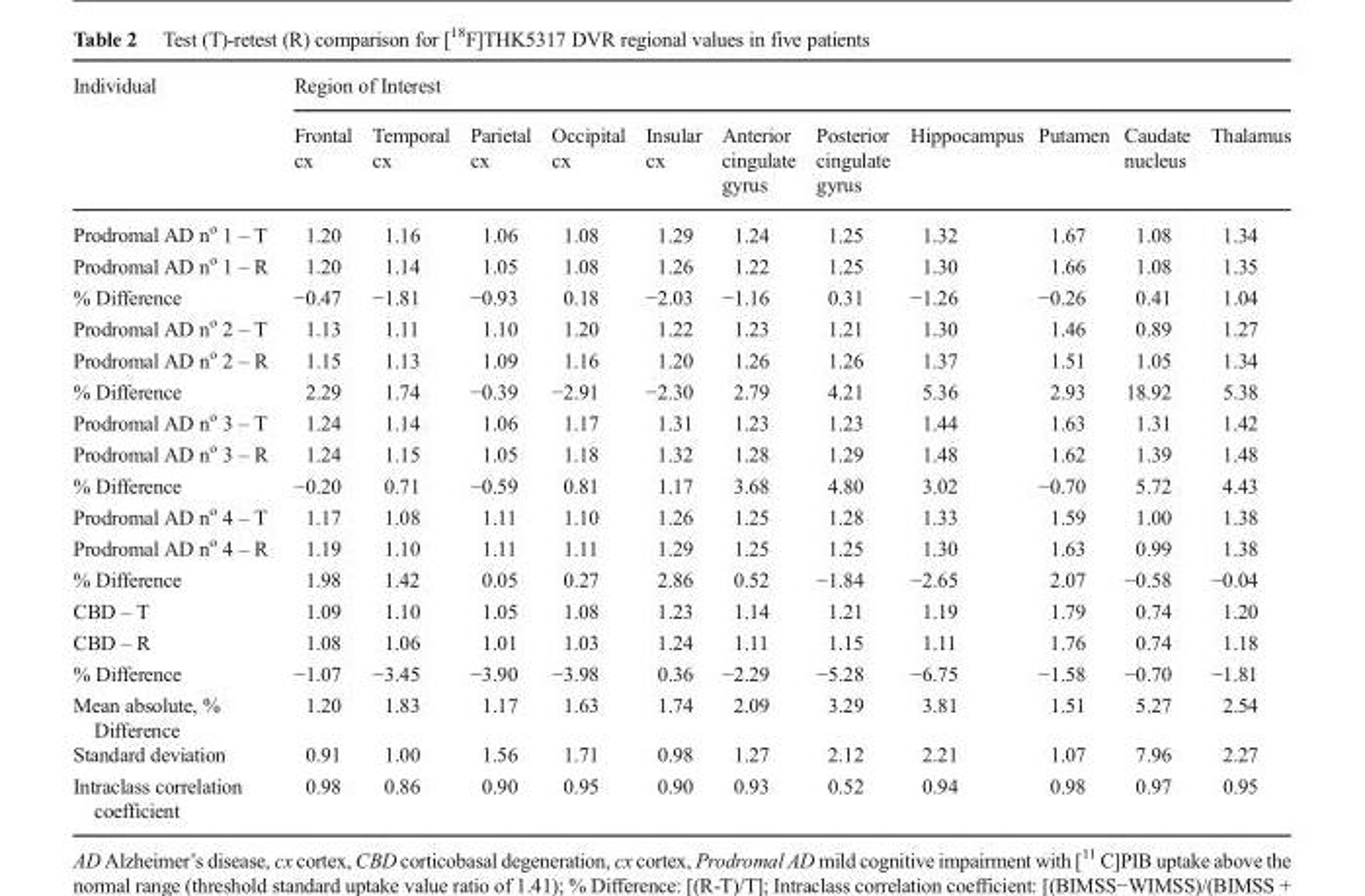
<table><thead><tr><td rowspan="2">Individual</td><td colspan="11">Region of Interest</td></tr><tr><td>Frontal cx</td><td>Temporal cx</td><td>Parietal cx</td><td>Occipital cx</td><td>Insular cx</td><td>Anterior cingulate gyrus</td><td>Posterior cingulate gyrus</td><td>Hippocampus</td><td>Putamen</td><td>Caudate nucleus</td><td>Thalamus</td></tr></thead><tbody><tr><td>Prodromal AD n<sup>o</sup> 1 – T</td><td>1.20</td><td>1.16</td><td>1.06</td><td>1.08</td><td>1.29</td><td>1.24</td><td>1.25</td><td>1.32</td><td>1.67</td><td>1.08</td><td>1.34</td></tr><tr><td>Prodromal AD n<sup>o</sup> 1 – R</td><td>1.20</td><td>1.14</td><td>1.05</td><td>1.08</td><td>1.26</td><td>1.22</td><td>1.25</td><td>1.30</td><td>1.66</td><td>1.08</td><td>1.35</td></tr><tr><td>% Difference</td><td>−0.47</td><td>−1.81</td><td>−0.93</td><td>0.18</td><td>−2.03</td><td>−1.16</td><td>0.31</td><td>−1.26</td><td>−0.26</td><td>0.41</td><td>1.04</td></tr><tr><td>Prodromal AD n<sup>o</sup> 2 – T</td><td>1.13</td><td>1.11</td><td>1.10</td><td>1.20</td><td>1.22</td><td>1.23</td><td>1.21</td><td>1.30</td><td>1.46</td><td>0.89</td><td>1.27</td></tr><tr><td>Prodromal AD n<sup>o</sup> 2 – R</td><td>1.15</td><td>1.13</td><td>1.09</td><td>1.16</td><td>1.20</td><td>1.26</td><td>1.26</td><td>1.37</td><td>1.51</td><td>1.05</td><td>1.34</td></tr><tr><td>% Difference</td><td>2.29</td><td>1.74</td><td>−0.39</td><td>−2.91</td><td>−2.30</td><td>2.79</td><td>4.21</td><td>5.36</td><td>2.93</td><td>18.92</td><td>5.38</td></tr><tr><td>Prodromal AD n<sup>o</sup> 3 – T</td><td>1.24</td><td>1.14</td><td>1.06</td><td>1.17</td><td>1.31</td><td>1.23</td><td>1.23</td><td>1.44</td><td>1.63</td><td>1.31</td><td>1.42</td></tr><tr><td>Prodromal AD n<sup>o</sup> 3 – R</td><td>1.24</td><td>1.15</td><td>1.05</td><td>1.18</td><td>1.32</td><td>1.28</td><td>1.29</td><td>1.48</td><td>1.62</td><td>1.39</td><td>1.48</td></tr><tr><td>% Difference</td><td>−0.20</td><td>0.71</td><td>−0.59</td><td>0.81</td><td>1.17</td><td>3.68</td><td>4.80</td><td>3.02</td><td>−0.70</td><td>5.72</td><td>4.43</td></tr><tr><td>Prodromal AD n<sup>o</sup> 4 – T</td><td>1.17</td><td>1.08</td><td>1.11</td><td>1.10</td><td>1.26</td><td>1.25</td><td>1.28</td><td>1.33</td><td>1.59</td><td>1.00</td><td>1.38</td></tr><tr><td>Prodromal AD n<sup>o</sup> 4 – R</td><td>1.19</td><td>1.10</td><td>1.11</td><td>1.11</td><td>1.29</td><td>1.25</td><td>1.25</td><td>1.30</td><td>1.63</td><td>0.99</td><td>1.38</td></tr><tr><td>% Difference</td><td>1.98</td><td>1.42</td><td>0.05</td><td>0.27</td><td>2.86</td><td>0.52</td><td>−1.84</td><td>−2.65</td><td>2.07</td><td>−0.58</td><td>−0.04</td></tr><tr><td>CBD – T</td><td>1.09</td><td>1.10</td><td>1.05</td><td>1.08</td><td>1.23</td><td>1.14</td><td>1.21</td><td>1.19</td><td>1.79</td><td>0.74</td><td>1.20</td></tr><tr><td>CBD – R</td><td>1.08</td><td>1.06</td><td>1.01</td><td>1.03</td><td>1.24</td><td>1.11</td><td>1.15</td><td>1.11</td><td>1.76</td><td>0.74</td><td>1.18</td></tr><tr><td>% Difference</td><td>−1.07</td><td>−3.45</td><td>−3.90</td><td>−3.98</td><td>0.36</td><td>−2.29</td><td>−5.28</td><td>−6.75</td><td>−1.58</td><td>−0.70</td><td>−1.81</td></tr><tr><td>Mean absolute, % Difference</td><td>1.20</td><td>1.83</td><td>1.17</td><td>1.63</td><td>1.74</td><td>2.09</td><td>3.29</td><td>3.81</td><td>1.51</td><td>5.27</td><td>2.54</td></tr><tr><td>Standard deviation</td><td>0.91</td><td>1.00</td><td>1.56</td><td>1.71</td><td>0.98</td><td>1.27</td><td>2.12</td><td>2.21</td><td>1.07</td><td>7.96</td><td>2.27</td></tr><tr><td>Intraclass correlation coefficient</td><td>0.98</td><td>0.86</td><td>0.90</td><td>0.95</td><td>0.90</td><td>0.93</td><td>0.52</td><td>0.94</td><td>0.98</td><td>0.97</td><td>0.95</td></tr></tbody></table>